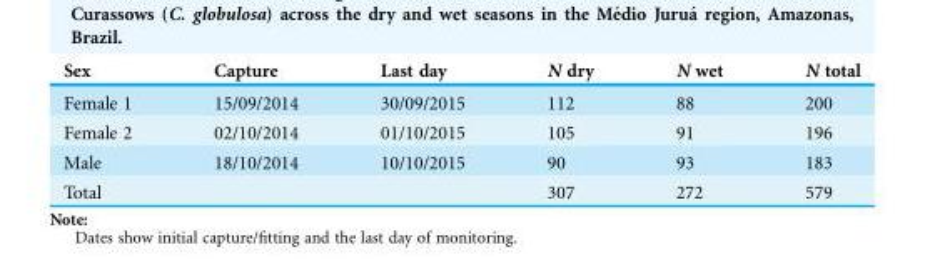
<table><thead><tr><td>Sex</td><td>Capture</td><td>Last day</td><td>N dry</td><td>N wet</td><td>N total</td></tr></thead><tbody><tr><td>Female 1</td><td>15/09/2014</td><td>30/09/2015</td><td>112</td><td>88</td><td>200</td></tr><tr><td>Female 2</td><td>02/10/2014</td><td>01/10/2015</td><td>105</td><td>91</td><td>196</td></tr><tr><td>Male</td><td>18/10/2014</td><td>10/10/2015</td><td>90</td><td>93</td><td>183</td></tr><tr><td>Total</td><td></td><td></td><td>307</td><td>272</td><td>579</td></tr></tbody></table>